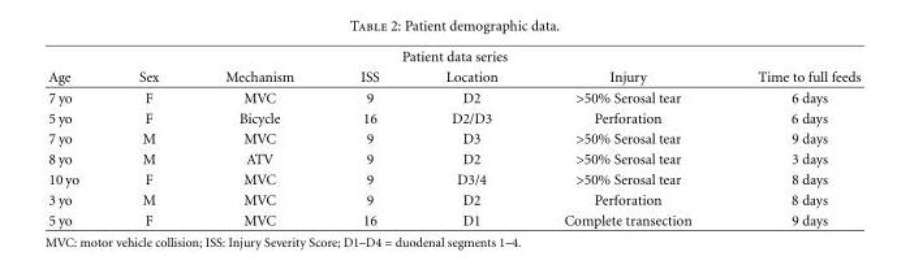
<table><thead><tr><td colspan="7">Patient data series</td></tr><tr><td>Age</td><td>Sex</td><td>Mechanism</td><td>ISS</td><td>Location</td><td>Injury</td><td>Time to full feeds</td></tr></thead><tbody><tr><td>7 yo</td><td>F</td><td>MVC</td><td>9</td><td>D2</td><td>&gt;50% Serosal tear</td><td>6 days</td></tr><tr><td>5 yo</td><td>F</td><td>Bicycle</td><td>16</td><td>D2/D3</td><td>Perforation</td><td>6 days</td></tr><tr><td>7 yo</td><td>M</td><td>MVC</td><td>9</td><td>D3</td><td>&gt;50% Serosal tear</td><td>9 days</td></tr><tr><td>8 yo</td><td>M</td><td>ATV</td><td>9</td><td>D2</td><td>&gt;50% Serosal tear</td><td>3 days</td></tr><tr><td>10 yo</td><td>F</td><td>MVC</td><td>9</td><td>D3/4</td><td>&gt;50% Serosal tear</td><td>8 days</td></tr><tr><td>3 yo</td><td>M</td><td>MVC</td><td>9</td><td>D2</td><td>Perforation</td><td>8 days</td></tr><tr><td>5 yo</td><td>F</td><td>MVC</td><td>16</td><td>D1</td><td>Complete transection</td><td>9 days</td></tr></tbody></table>